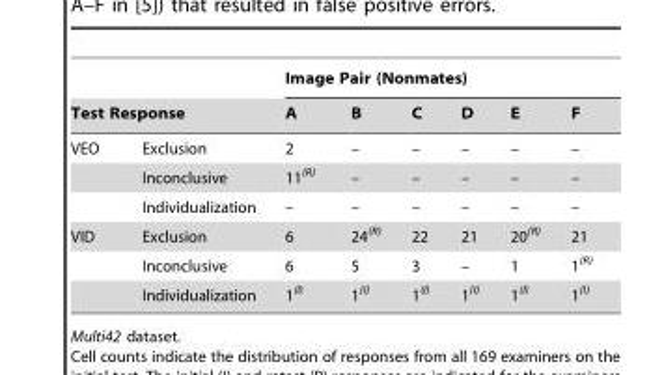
<table><thead><tr><td></td><td></td><td colspan="6">Image Pair (Nonmates)</td></tr><tr><td colspan="2">Test Response</td><td>A</td><td>B</td><td>C</td><td>D</td><td>E</td><td>F</td></tr></thead><tbody><tr><td rowspan="3">VEO</td><td>Exclusion</td><td>2</td><td>–</td><td>–</td><td>–</td><td>–</td><td>–</td></tr><tr><td>Inconclusive</td><td>11<sup>(R)</sup></td><td>–</td><td>–</td><td>–</td><td>–</td><td>–</td></tr><tr><td>Individualization</td><td>–</td><td>–</td><td>–</td><td>–</td><td>–</td><td>–</td></tr><tr><td rowspan="3">VID</td><td>Exclusion</td><td>6</td><td>24<sup>(R)</sup></td><td>22</td><td>21</td><td>20<sup>(R)</sup></td><td>21</td></tr><tr><td>Inconclusive</td><td>6</td><td>5</td><td>3</td><td>–</td><td>1</td><td>1<sup>(R)</sup></td></tr><tr><td>Individualization</td><td>1<sup>(I)</sup></td><td>1<sup>(I)</sup></td><td>1<sup>(I)</sup></td><td>1<sup>(I)</sup></td><td>1<sup>(I)</sup></td><td>1<sup>(I)</sup></td></tr></tbody></table>